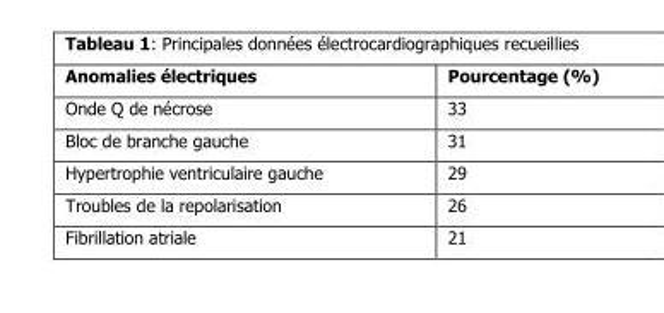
<table><thead><tr><td>Anomalies électriques</td><td>Pourcentage (%)</td></tr></thead><tbody><tr><td>Onde Q de nécrose</td><td>33</td></tr><tr><td>Bloc de branche gauche</td><td>31</td></tr><tr><td>Hypertrophie ventriculaire gauche</td><td>29</td></tr><tr><td>Troubles de la repolarisation</td><td>26</td></tr><tr><td>Fibrillation atriale</td><td>21</td></tr></tbody></table>